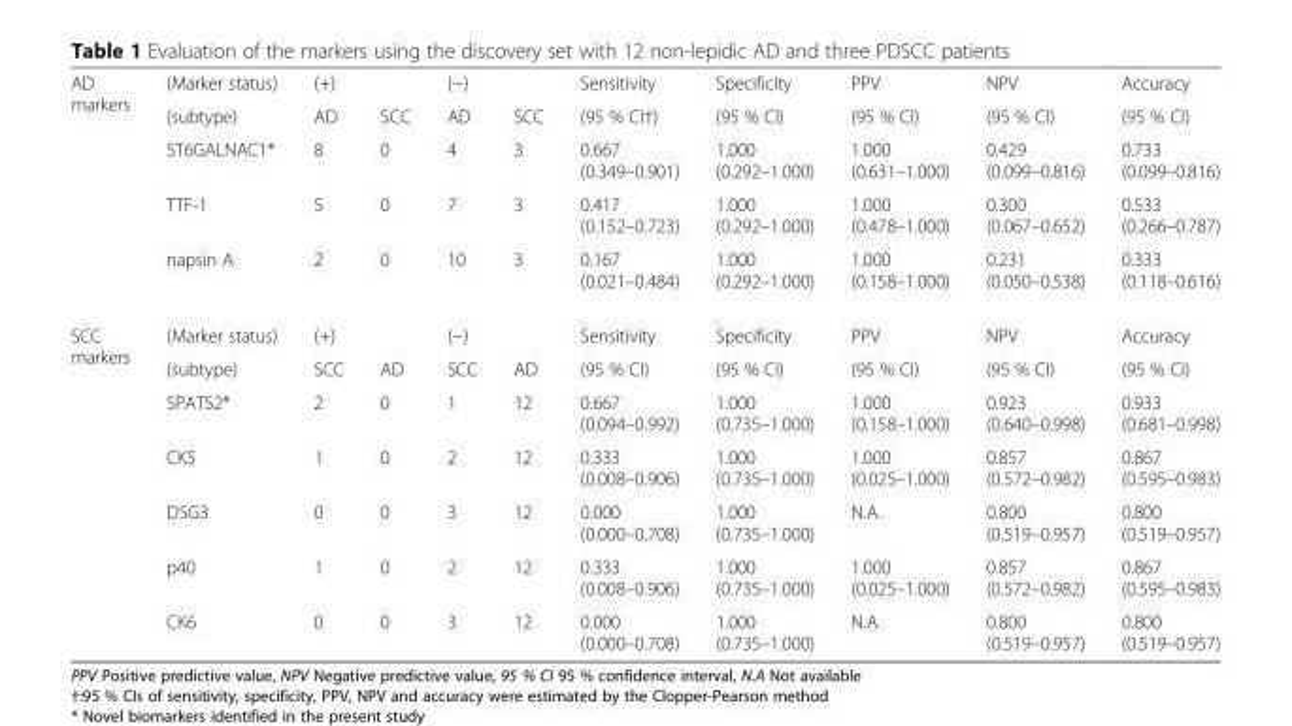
<table><tbody><tr><td rowspan="5">AD markers</td><td>(Marker status)</td><td colspan="2">(+)</td><td colspan="2">(−)</td><td>Sensitivity</td><td>Specificity</td><td>PPV</td><td>NPV</td><td>Accuracy</td></tr><tr><td>(subtype)</td><td>AD</td><td>SCC</td><td>AD</td><td>SCC</td><td>(95 % CI†)</td><td>(95 % CI)</td><td>(95 % CI)</td><td>(95 % CI)</td><td>(95 % CI)</td></tr><tr><td>ST6GALNAC1*</td><td>8</td><td>0</td><td>4</td><td>3</td><td>0.667 (0.349–0.901)</td><td>1.000 (0.292–1.000)</td><td>1.000 (0.631–1.000)</td><td>0.429 (0.099–0.816)</td><td>0.733 (0.099–0.816)</td></tr><tr><td>TTF-1</td><td>5</td><td>0</td><td>7</td><td>3</td><td>0.417 (0.152–0.723)</td><td>1.000 (0.292–1.000)</td><td>1.000 (0.478–1.000)</td><td>0.300 (0.067–0.652)</td><td>0.533 (0.266–0.787)</td></tr><tr><td>napsin A</td><td>2</td><td>0</td><td>10</td><td>3</td><td>0.167 (0.021–0.484)</td><td>1.000 (0.292–1.000)</td><td>1.000 (0.158–1.000)</td><td>0.231 (0.050–0.538)</td><td>0.333 (0.118–0.616)</td></tr><tr><td rowspan="7">SCC markers</td><td>(Marker status)</td><td colspan="2">(+)</td><td colspan="2">(−)</td><td>Sensitivity</td><td>Specificity</td><td>PPV</td><td>NPV</td><td>Accuracy</td></tr><tr><td>(subtype)</td><td>SCC</td><td>AD</td><td>SCC</td><td>AD</td><td>(95 % CI)</td><td>(95 % CI)</td><td>(95 % CI)</td><td>(95 % CI)</td><td>(95 % CI)</td></tr><tr><td>SPATS2*</td><td>2</td><td>0</td><td>1</td><td>12</td><td>0.667 (0.094–0.992)</td><td>1.000 (0.735–1.000)</td><td>1.000 (0.158–1.000)</td><td>0.923 (0.640–0.998)</td><td>0.933 (0.681–0.998)</td></tr><tr><td>CK5</td><td>1</td><td>0</td><td>2</td><td>12</td><td>0.333 (0.008–0.906)</td><td>1.000 (0.735–1.000)</td><td>1.000 (0.025–1.000)</td><td>0.857 (0.572–0.982)</td><td>0.867 (0.595–0.983)</td></tr><tr><td>DSG3</td><td>0</td><td>0</td><td>3</td><td>12</td><td>0.000 (0.000–0.708)</td><td>1.000 (0.735–1.000)</td><td>N.A.</td><td>0.800 (0.519–0.957)</td><td>0.800 (0.519–0.957)</td></tr><tr><td>p40</td><td>1</td><td>0</td><td>2</td><td>12</td><td>0.333 (0.008–0.906)</td><td>1.000 (0.735–1.000)</td><td>1.000 (0.025–1.000)</td><td>0.857 (0.572–0.982)</td><td>0.867 (0.595–0.983)</td></tr><tr><td>CK6</td><td>0</td><td>0</td><td>3</td><td>12</td><td>0.000 (0.000–0.708)</td><td>1.000 (0.735–1.000)</td><td>N.A.</td><td>0.800 (0.519–0.957)</td><td>0.800 (0.519–0.957)</td></tr></tbody></table>